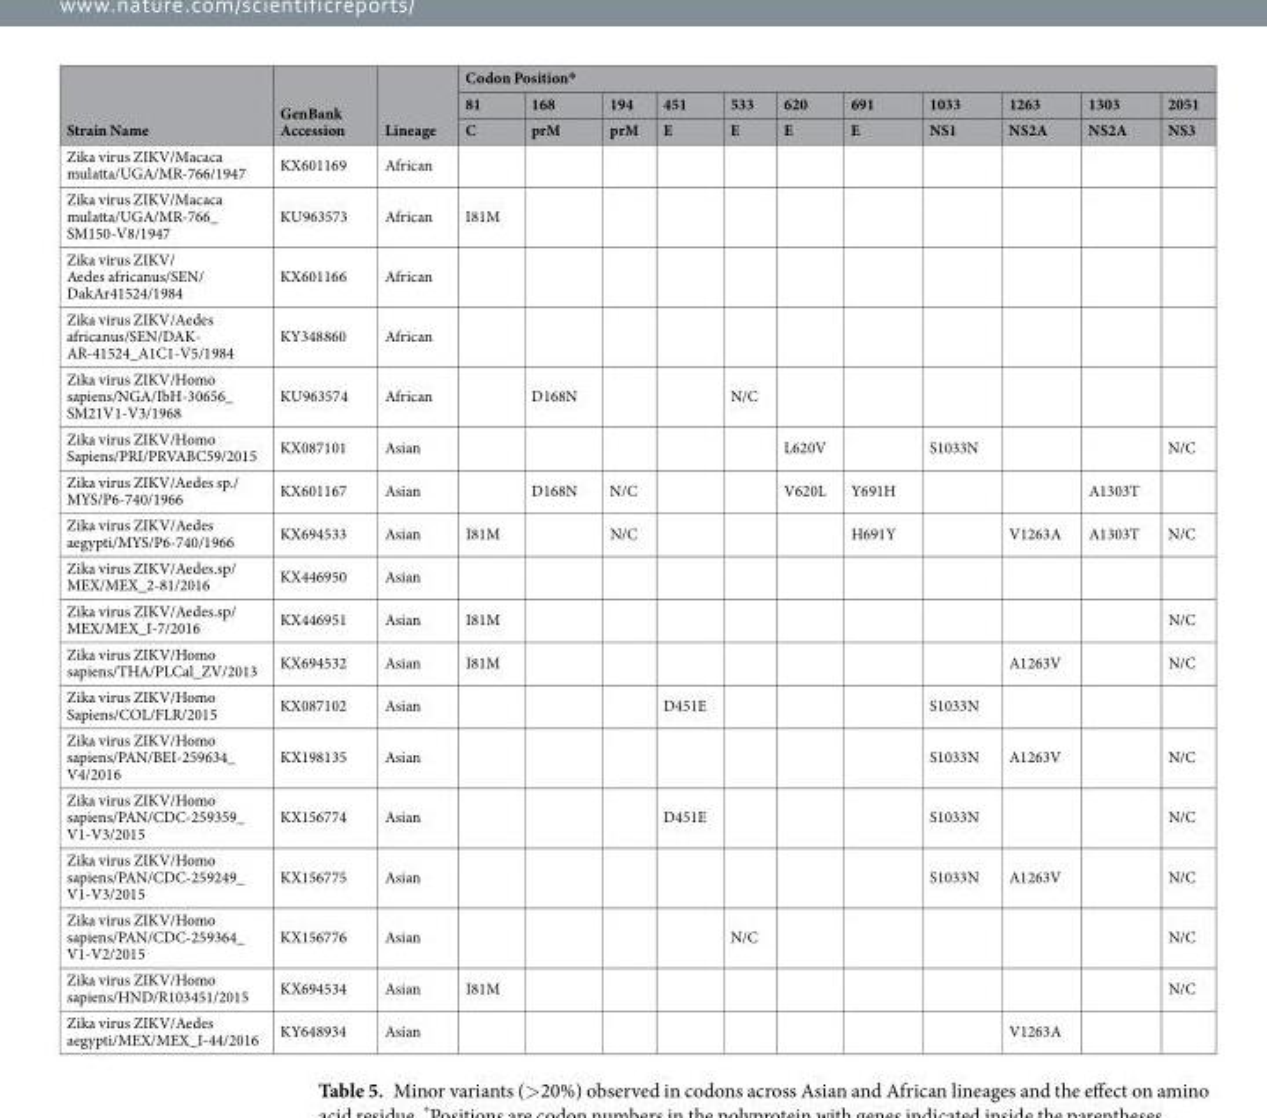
<table><thead><tr><td rowspan="3">Strain Name</td><td rowspan="3">GenBank Accession</td><td rowspan="3">Lineage</td><td colspan="11">Codon Position*</td></tr><tr><td rowspan="2">81 C</td><td rowspan="2">168 prM</td><td rowspan="2">194 prM</td><td rowspan="2">451 E</td><td rowspan="2">533 E</td><td rowspan="2">620 E</td><td rowspan="2">691 E</td><td rowspan="2">1033 NS1</td><td rowspan="2">1263 NS2A</td><td rowspan="2">1303 NS2A</td><td rowspan="2">2051 NS3</td></tr><tr></tr></thead><tbody><tr><td>Zika virus ZIKV/Macaca mulatta/UGA/MR-766/1947</td><td>KX601169</td><td>African</td><td></td><td></td><td></td><td></td><td></td><td></td><td></td><td></td><td></td><td></td><td></td></tr><tr><td>Zika virus ZIKV/Macaca mulatta/UGA/MR-766_ SM150-V8/1947</td><td>KU963573</td><td>African</td><td>I81M</td><td></td><td></td><td></td><td></td><td></td><td></td><td></td><td></td><td></td><td></td></tr><tr><td>Zika virus ZIKV/ Aedes africanus/SEN/ DakAr41524/1984</td><td>KX601166</td><td>African</td><td></td><td></td><td></td><td></td><td></td><td></td><td></td><td></td><td></td><td></td><td></td></tr><tr><td>Zika virus ZIKV/Aedes africanus/SEN/DAK- AR-41524_A1C1-V5/1984</td><td>KY348860</td><td>African</td><td></td><td></td><td></td><td></td><td></td><td></td><td></td><td></td><td></td><td></td><td></td></tr><tr><td>Zika virus ZIKV/Homo sapiens/NGA/IbH-30656_ SM21V1-V3/1968</td><td>KU963574</td><td>African</td><td></td><td>D168N</td><td></td><td></td><td>N/C</td><td></td><td></td><td></td><td></td><td></td><td></td></tr><tr><td>Zika virus ZIKV/Homo Sapiens/PRI/PRVABC59/2015</td><td>KX087101</td><td>Asian</td><td></td><td></td><td></td><td></td><td></td><td>L620V</td><td></td><td>S1033N</td><td></td><td></td><td>N/C</td></tr><tr><td>Zika virus ZIKV/Aedes sp./ MYS/P6-740/1966</td><td>KX601167</td><td>Asian</td><td></td><td>D168N</td><td>N/C</td><td></td><td></td><td>V620L</td><td>Y691H</td><td></td><td></td><td>A1303T</td><td></td></tr><tr><td>Zika virus ZIKV/Aedes aegypti/MYS/P6-740/1966</td><td>KX694533</td><td>Asian</td><td>I81M</td><td></td><td>N/C</td><td></td><td></td><td></td><td>H691Y</td><td></td><td>V1263A</td><td>A1303T</td><td>N/C</td></tr><tr><td>Zika virus ZIKV/Aedes.sp/ MEX/MEX_2-81/2016</td><td>KX446950</td><td>Asian</td><td></td><td></td><td></td><td></td><td></td><td></td><td></td><td></td><td></td><td></td><td></td></tr><tr><td>Zika virus ZIKV/Aedes.sp/ MEX/MEX_I-7/2016</td><td>KX446951</td><td>Asian</td><td>I81M</td><td></td><td></td><td></td><td></td><td></td><td></td><td></td><td></td><td></td><td>N/C</td></tr><tr><td>Zika virus ZIKV/Homo sapiens/THA/PLCal_ZV/2013</td><td>KX694532</td><td>Asian</td><td>I81M</td><td></td><td></td><td></td><td></td><td></td><td></td><td></td><td>A1263V</td><td></td><td>N/C</td></tr><tr><td>Zika virus ZIKV/Homo Sapiens/COL/FLR/2015</td><td>KX087102</td><td>Asian</td><td></td><td></td><td></td><td>D451E</td><td></td><td></td><td></td><td>S1033N</td><td></td><td></td><td></td></tr><tr><td>Zika virus ZIKV/Homo sapiens/PAN/BEI-259634_ V4/2016</td><td>KX198135</td><td>Asian</td><td></td><td></td><td></td><td></td><td></td><td></td><td></td><td>S1033N</td><td>A1263V</td><td></td><td>N/C</td></tr><tr><td>Zika virus ZIKV/Homo sapiens/PAN/CDC-259359_ V1-V3/2015</td><td>KX156774</td><td>Asian</td><td></td><td></td><td></td><td>D451E</td><td></td><td></td><td></td><td>S1033N</td><td></td><td></td><td>N/C</td></tr><tr><td>Zika virus ZIKV/Homo sapiens/PAN/CDC-259249_ V1-V3/2015</td><td>KX156775</td><td>Asian</td><td></td><td></td><td></td><td></td><td></td><td></td><td></td><td>S1033N</td><td>A1263V</td><td></td><td>N/C</td></tr><tr><td>Zika virus ZIKV/Homo sapiens/PAN/CDC-259364_ V1-V2/2015</td><td>KX156776</td><td>Asian</td><td></td><td></td><td></td><td></td><td>N/C</td><td></td><td></td><td></td><td></td><td></td><td>N/C</td></tr><tr><td>Zika virus ZIKV/Homo sapiens/HND/R103451/2015</td><td>KX694534</td><td>Asian</td><td>I81M</td><td></td><td></td><td></td><td></td><td></td><td></td><td></td><td></td><td></td><td>N/C</td></tr><tr><td>Zika virus ZIKV/Aedes aegypti/MEX/MEX_I-44/2016</td><td>KY648934</td><td>Asian</td><td></td><td></td><td></td><td></td><td></td><td></td><td></td><td></td><td>V1263A</td><td></td><td></td></tr></tbody></table>